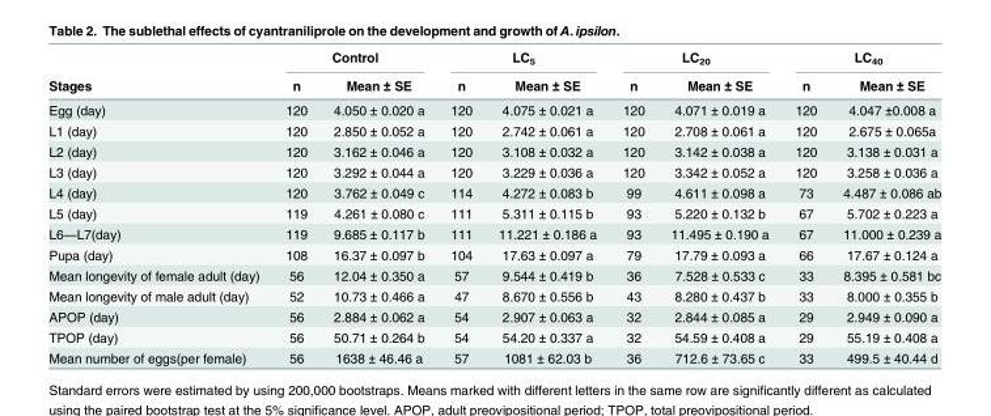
<table><thead><tr><td rowspan="2">Stages</td><td colspan="2">Control</td><td colspan="2">LC<sub>5</sub></td><td colspan="2">LC<sub>20</sub></td><td colspan="2">LC<sub>40</sub></td></tr><tr><td>n</td><td>Mean ± SE</td><td>n</td><td>Mean ± SE</td><td>n</td><td>Mean ± SE</td><td>n</td><td>Mean ± SE</td></tr></thead><tbody><tr><td>Egg (day)</td><td>120</td><td>4.050 ± 0.020 a</td><td>120</td><td>4.075 ± 0.021 a</td><td>120</td><td>4.071 ± 0.019 a</td><td>120</td><td>4.047 ±0.008 a</td></tr><tr><td>L1 (day)</td><td>120</td><td>2.850 ± 0.052 a</td><td>120</td><td>2.742 ± 0.061 a</td><td>120</td><td>2.708 ± 0.061 a</td><td>120</td><td>2.675 ± 0.065a</td></tr><tr><td>L2 (day)</td><td>120</td><td>3.162 ± 0.046 a</td><td>120</td><td>3.108 ± 0.032 a</td><td>120</td><td>3.142 ± 0.038 a</td><td>120</td><td>3.138 ± 0.031 a</td></tr><tr><td>L3 (day)</td><td>120</td><td>3.292 ± 0.044 a</td><td>120</td><td>3.229 ± 0.036 a</td><td>120</td><td>3.342 ± 0.052 a</td><td>120</td><td>3.258 ± 0.036 a</td></tr><tr><td>L4 (day)</td><td>120</td><td>3.762 ± 0.049 c</td><td>114</td><td>4.272 ± 0.083 b</td><td>99</td><td>4.611 ± 0.098 a</td><td>73</td><td>4.487 ± 0.086 ab</td></tr><tr><td>L5 (day)</td><td>119</td><td>4.261 ± 0.080 c</td><td>111</td><td>5.311 ± 0.115 b</td><td>93</td><td>5.220 ± 0.132 b</td><td>67</td><td>5.702 ± 0.223 a</td></tr><tr><td>L6—L7(day)</td><td>119</td><td>9.685 ± 0.117 b</td><td>111</td><td>11.221 ± 0.186 a</td><td>93</td><td>11.495 ± 0.190 a</td><td>67</td><td>11.000 ± 0.239 a</td></tr><tr><td>Pupa (day)</td><td>108</td><td>16.37 ± 0.097 b</td><td>104</td><td>17.63 ± 0.097 a</td><td>79</td><td>17.79 ± 0.093 a</td><td>66</td><td>17.67 ± 0.124 a</td></tr><tr><td>Mean longevity of female adult (day)</td><td>56</td><td>12.04 ± 0.350 a</td><td>57</td><td>9.544 ± 0.419 b</td><td>36</td><td>7.528 ± 0.533 c</td><td>33</td><td>8.395 ± 0.581 bc</td></tr><tr><td>Mean longevity of male adult (day)</td><td>52</td><td>10.73 ± 0.466 a</td><td>47</td><td>8.670 ± 0.556 b</td><td>43</td><td>8.280 ± 0.437 b</td><td>33</td><td>8.000 ± 0.355 b</td></tr><tr><td>APOP (day)</td><td>56</td><td>2.884 ± 0.062 a</td><td>54</td><td>2.907 ± 0.063 a</td><td>32</td><td>2.844 ± 0.085 a</td><td>29</td><td>2.949 ± 0.090 a</td></tr><tr><td>TPOP (day)</td><td>56</td><td>50.71 ± 0.264 b</td><td>54</td><td>54.20 ± 0.337 a</td><td>32</td><td>54.59 ± 0.408 a</td><td>29</td><td>55.19 ± 0.408 a</td></tr><tr><td>Mean number of eggs(per female)</td><td>56</td><td>1638 ± 46.46 a</td><td>57</td><td>1081 ± 62.03 b</td><td>36</td><td>712.6 ± 73.65 c</td><td>33</td><td>499.5 ± 40.44 d</td></tr></tbody></table>